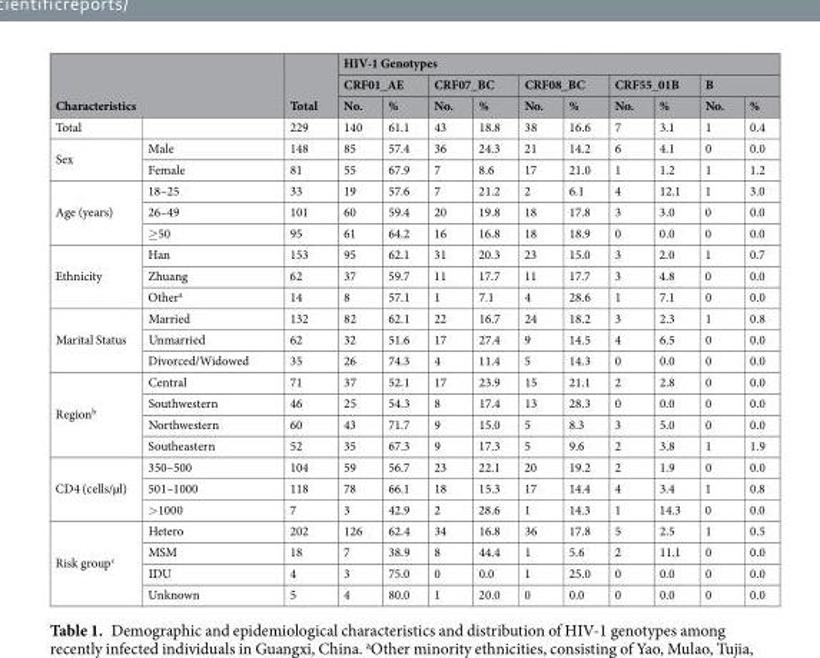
<table><thead><tr><td rowspan="3" colspan="2">Characteristics</td><td rowspan="4">Total 229</td><td colspan="10">HIV-1 Genotypes</td></tr><tr><td colspan="2">CRF01_AE</td><td colspan="2">CRF07_BC</td><td colspan="2">CRF08_BC</td><td colspan="2">CRF55_01B</td><td colspan="2">B</td></tr><tr><td rowspan="2">No. 140</td><td rowspan="2">% 61.1</td><td rowspan="2">No. 43</td><td rowspan="2">% 18.8</td><td rowspan="2">No. 38</td><td rowspan="2">% 16.6</td><td rowspan="2">No. 7</td><td rowspan="2">% 3.1</td><td rowspan="2">No. 1</td><td rowspan="2">% 0.4</td></tr><tr><td>Total</td><td></td></tr></thead><tbody><tr><td rowspan="2">Sex</td><td>Male</td><td>148</td><td>85</td><td>57.4</td><td>36</td><td>24.3</td><td>21</td><td>14.2</td><td>6</td><td>4.1</td><td>0</td><td>0.0</td></tr><tr><td>Female</td><td>81</td><td>55</td><td>67.9</td><td>7</td><td>8.6</td><td>17</td><td>21.0</td><td>1</td><td>1.2</td><td>1</td><td>1.2</td></tr><tr><td rowspan="3">Age (years)</td><td>18–25</td><td>33</td><td>19</td><td>57.6</td><td>7</td><td>21.2</td><td>2</td><td>6.1</td><td>4</td><td>12.1</td><td>1</td><td>3.0</td></tr><tr><td>26–49</td><td>101</td><td>60</td><td>59.4</td><td>20</td><td>19.8</td><td>18</td><td>17.8</td><td>3</td><td>3.0</td><td>0</td><td>0.0</td></tr><tr><td>≥50</td><td>95</td><td>61</td><td>64.2</td><td>16</td><td>16.8</td><td>18</td><td>18.9</td><td>0</td><td>0.0</td><td>0</td><td>0.0</td></tr><tr><td rowspan="3">Ethnicity</td><td>Han</td><td>153</td><td>95</td><td>62.1</td><td>31</td><td>20.3</td><td>23</td><td>15.0</td><td>3</td><td>2.0</td><td>1</td><td>0.7</td></tr><tr><td>Zhuang</td><td>62</td><td>37</td><td>59.7</td><td>11</td><td>17.7</td><td>11</td><td>17.7</td><td>3</td><td>4.8</td><td>0</td><td>0.0</td></tr><tr><td>Other<sup>a</sup></td><td>14</td><td>8</td><td>57.1</td><td>1</td><td>7.1</td><td>4</td><td>28.6</td><td>1</td><td>7.1</td><td>0</td><td>0.0</td></tr><tr><td rowspan="3">Marital Status</td><td>Married</td><td>132</td><td>82</td><td>62.1</td><td>22</td><td>16.7</td><td>24</td><td>18.2</td><td>3</td><td>2.3</td><td>1</td><td>0.8</td></tr><tr><td>Unmarried</td><td>62</td><td>32</td><td>51.6</td><td>17</td><td>27.4</td><td>9</td><td>14.5</td><td>4</td><td>6.5</td><td>0</td><td>0.0</td></tr><tr><td>Divorced/Widowed</td><td>35</td><td>26</td><td>74.3</td><td>4</td><td>11.4</td><td>5</td><td>14.3</td><td>0</td><td>0.0</td><td>0</td><td>0.0</td></tr><tr><td rowspan="4">Region<sup>b</sup></td><td>Central</td><td>71</td><td>37</td><td>52.1</td><td>17</td><td>23.9</td><td>15</td><td>21.1</td><td>2</td><td>2.8</td><td>0</td><td>0.0</td></tr><tr><td>Southwestern</td><td>46</td><td>25</td><td>54.3</td><td>8</td><td>17.4</td><td>13</td><td>28.3</td><td>0</td><td>0.0</td><td>0</td><td>0.0</td></tr><tr><td>Northwestern</td><td>60</td><td>43</td><td>71.7</td><td>9</td><td>15.0</td><td>5</td><td>8.3</td><td>3</td><td>5.0</td><td>0</td><td>0.0</td></tr><tr><td>Southeastern</td><td>52</td><td>35</td><td>67.3</td><td>9</td><td>17.3</td><td>5</td><td>9.6</td><td>2</td><td>3.8</td><td>1</td><td>1.9</td></tr><tr><td rowspan="3">CD4 (cells/µl)</td><td>350–500</td><td>104</td><td>59</td><td>56.7</td><td>23</td><td>22.1</td><td>20</td><td>19.2</td><td>2</td><td>1.9</td><td>0</td><td>0.0</td></tr><tr><td>501–1000</td><td>118</td><td>78</td><td>66.1</td><td>18</td><td>15.3</td><td>17</td><td>14.4</td><td>4</td><td>3.4</td><td>1</td><td>0.8</td></tr><tr><td>&gt;1000</td><td>7</td><td>3</td><td>42.9</td><td>2</td><td>28.6</td><td>1</td><td>14.3</td><td>1</td><td>14.3</td><td>0</td><td>0.0</td></tr><tr><td rowspan="4">Risk group<sup>c</sup></td><td>Hetero</td><td>202</td><td>126</td><td>62.4</td><td>34</td><td>16.8</td><td>36</td><td>17.8</td><td>5</td><td>2.5</td><td>1</td><td>0.5</td></tr><tr><td>MSM</td><td>18</td><td>7</td><td>38.9</td><td>8</td><td>44.4</td><td>1</td><td>5.6</td><td>2</td><td>11.1</td><td>0</td><td>0.0</td></tr><tr><td>IDU</td><td>4</td><td>3</td><td>75.0</td><td>0</td><td>0.0</td><td>1</td><td>25.0</td><td>0</td><td>0.0</td><td>0</td><td>0.0</td></tr><tr><td>Unknown</td><td>5</td><td>4</td><td>80.0</td><td>1</td><td>20.0</td><td>0</td><td>0.0</td><td>0</td><td>0.0</td><td>0</td><td>0.0</td></tr></tbody></table>